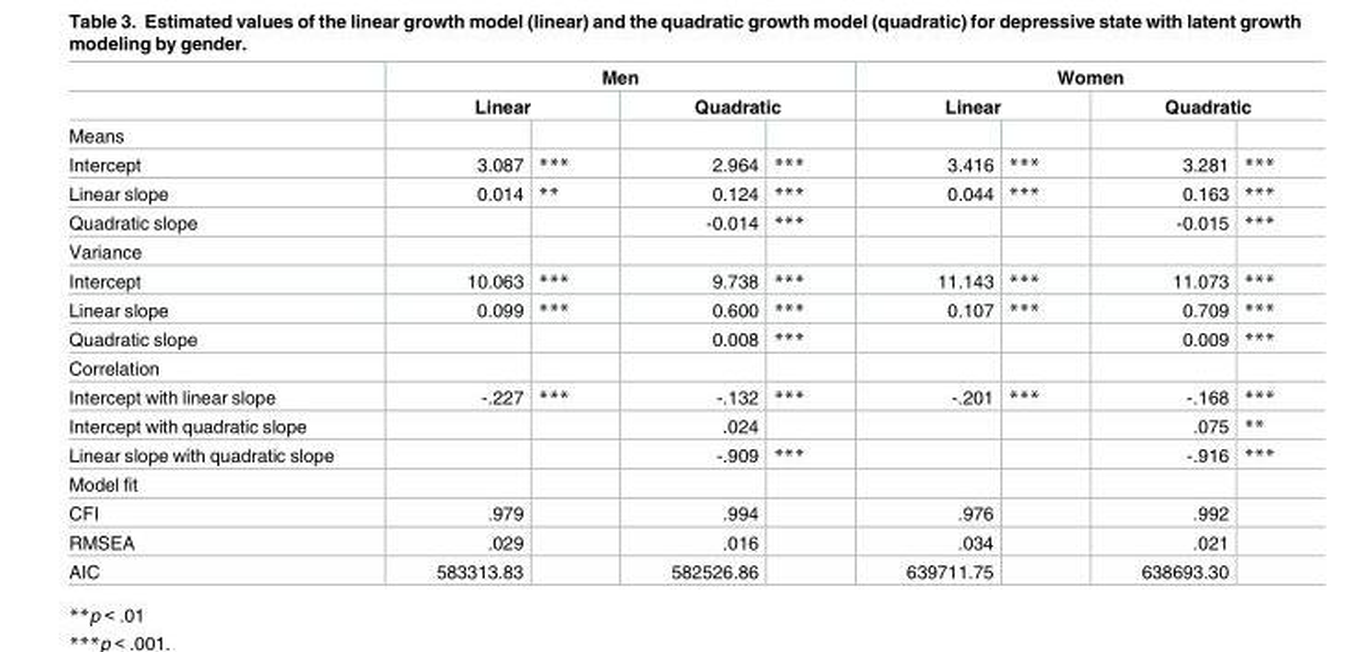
<table><thead><tr><td rowspan="3">Means</td><td colspan="4">Men</td><td colspan="4">Women</td></tr><tr><td colspan="2">Linear</td><td colspan="2">Quadratic</td><td colspan="2">Linear</td><td colspan="2">Quadratic</td></tr><tr><td></td><td></td><td></td><td></td><td></td><td></td><td></td><td></td></tr></thead><tbody><tr><td>Intercept</td><td>3.087</td><td>***</td><td>2.964</td><td>***</td><td>3.416</td><td>***</td><td>3.281</td><td>***</td></tr><tr><td>Linear slope</td><td>0.014</td><td>**</td><td>0.124</td><td>***</td><td>0.044</td><td>***</td><td>0.163</td><td>***</td></tr><tr><td>Quadratic slope</td><td></td><td></td><td>-0.014</td><td>***</td><td></td><td></td><td>-0.015</td><td>***</td></tr><tr><td colspan="9">Variance</td></tr><tr><td>Intercept</td><td>10.063</td><td>***</td><td>9.738</td><td>***</td><td>11.143</td><td>***</td><td>11.073</td><td>***</td></tr><tr><td>Linear slope</td><td>0.099</td><td>***</td><td>0.600</td><td>***</td><td>0.107</td><td>***</td><td>0.709</td><td>***</td></tr><tr><td>Quadratic slope</td><td></td><td></td><td>0.008</td><td>***</td><td></td><td></td><td>0.009</td><td>***</td></tr><tr><td colspan="9">Correlation</td></tr><tr><td>Intercept with linear slope</td><td>-.227</td><td>***</td><td>-.132</td><td>***</td><td>-.201</td><td>***</td><td>-.168</td><td>***</td></tr><tr><td>Intercept with quadratic slope</td><td></td><td></td><td>.024</td><td></td><td></td><td></td><td>.075</td><td>**</td></tr><tr><td>Linear slope with quadratic slope</td><td></td><td></td><td>-.909</td><td>***</td><td></td><td></td><td>-.916</td><td>***</td></tr><tr><td colspan="9">Model fit</td></tr><tr><td>CFI</td><td>.979</td><td></td><td>.994</td><td></td><td>.976</td><td></td><td>.992</td><td></td></tr><tr><td>RMSEA</td><td>.029</td><td></td><td>.016</td><td></td><td>.034</td><td></td><td>.021</td><td></td></tr><tr><td>AIC</td><td>583313.83</td><td></td><td>582526.86</td><td></td><td>639711.75</td><td></td><td>638693.30</td><td></td></tr></tbody></table>